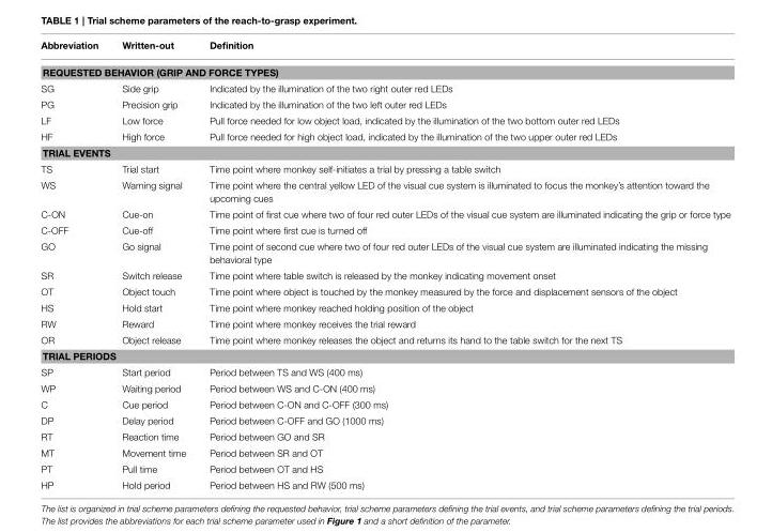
<table><thead><tr><td>Abbreviation</td><td>Written-out</td><td>Definition</td></tr></thead><tbody><tr><td colspan="3">REQUESTED BEHAVIOR (GRIP AND FORCE TYPES)</td></tr><tr><td>SG</td><td>Side grip</td><td>Indicated by the illumination of the two right outer red LEDs</td></tr><tr><td>PG</td><td>Precision grip</td><td>Indicated by the illumination of the two left outer red LEDs</td></tr><tr><td>LF</td><td>Low force</td><td>Pull force needed for low object load, indicated by the illumination of the two bottom outer red LEDs</td></tr><tr><td>HF</td><td>High force</td><td>Pull force needed for high object load, indicated by the illumination of the two upper outer red LEDs</td></tr><tr><td colspan="3">TRIAL EVENTS</td></tr><tr><td>TS</td><td>Trial start</td><td>Time point where monkey self-initiates a trial by pressing a table switch</td></tr><tr><td>WS</td><td>Warning signal</td><td>Time point where the central yellow LED of the visual cue system is illuminated to focus the monkey’s attention toward the upcoming cues</td></tr><tr><td>C-ON</td><td>Cue-on</td><td>Time point of first cue where two of four red outer LEDs of the visual cue system are illuminated indicating the grip or force type</td></tr><tr><td>C-OFF</td><td>Cue-off</td><td>Time point where first cue is turned off</td></tr><tr><td>GO</td><td>Go signal</td><td>Time point of second cue where two of four red outer LEDs of the visual cue system are illuminated indicating the missing behavioral type</td></tr><tr><td>SR</td><td>Switch release</td><td>Time point where table switch is released by the monkey indicating movement onset</td></tr><tr><td>OT</td><td>Object touch</td><td>Time point where object is touched by the monkey measured by the force and displacement sensors of the object</td></tr><tr><td>HS</td><td>Hold start</td><td>Time point where monkey reached holding position of the object</td></tr><tr><td>RW</td><td>Reward</td><td>Time point where monkey receives the trial reward</td></tr><tr><td>OR</td><td>Object release</td><td>Time point where monkey releases the object and returns its hand to the table switch for the next TS</td></tr><tr><td colspan="3">TRIAL PERIODS</td></tr><tr><td>SP</td><td>Start period</td><td>Period between TS and WS (400 ms)</td></tr><tr><td>WP</td><td>Waiting period</td><td>Period between WS and C-ON (400 ms)</td></tr><tr><td>C</td><td>Cue period</td><td>Period between C-ON and C-OFF (300 ms)</td></tr><tr><td>DP</td><td>Delay period</td><td>Period between C-OFF and GO (1000 ms)</td></tr><tr><td>RT</td><td>Reaction time</td><td>Period between GO and SR</td></tr><tr><td>MT</td><td>Movement time</td><td>Period between SR and OT</td></tr><tr><td>PT</td><td>Pull time</td><td>Period between OT and HS</td></tr><tr><td>HP</td><td>Hold period</td><td>Period between HS and RW (500 ms)</td></tr></tbody></table>